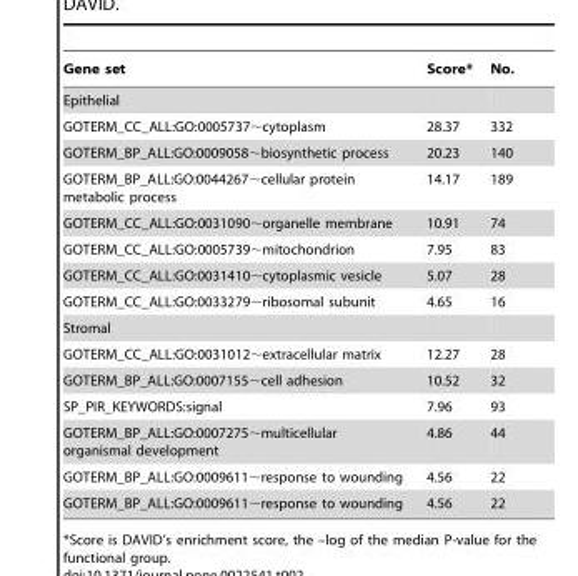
<table><thead><tr><td>Gene set</td><td>Score*</td><td>No.</td></tr></thead><tbody><tr><td colspan="3">Epithelial</td></tr><tr><td>GOTERM_CC_ALL:GO:0005737∼cytoplasm</td><td>28.37</td><td>332</td></tr><tr><td>GOTERM_BP_ALL:GO:0009058∼biosynthetic process</td><td>20.23</td><td>140</td></tr><tr><td>GOTERM_BP_ALL:GO:0044267∼cellular protein metabolic process</td><td>14.17</td><td>189</td></tr><tr><td>GOTERM_CC_ALL:GO:0031090∼organelle membrane</td><td>10.91</td><td>74</td></tr><tr><td>GOTERM_CC_ALL:GO:0005739∼mitochondrion</td><td>7.95</td><td>83</td></tr><tr><td>GOTERM_CC_ALL:GO:0031410∼cytoplasmic vesicle</td><td>5.07</td><td>28</td></tr><tr><td>GOTERM_CC_ALL:GO:0033279∼ribosomal subunit</td><td>4.65</td><td>16</td></tr><tr><td colspan="3">Stromal</td></tr><tr><td>GOTERM_CC_ALL:GO:0031012∼extracellular matrix</td><td>12.27</td><td>28</td></tr><tr><td>GOTERM_BP_ALL:GO:0007155∼cell adhesion</td><td>10.52</td><td>32</td></tr><tr><td>SP_PIR_KEYWORDS:signal</td><td>7.96</td><td>93</td></tr><tr><td>GOTERM_BP_ALL:GO:0007275∼multicellular organismal development</td><td>4.86</td><td>44</td></tr><tr><td>GOTERM_BP_ALL:GO:0009611∼response to wounding</td><td>4.56</td><td>22</td></tr><tr><td>GOTERM_BP_ALL:GO:0009611∼response to wounding</td><td>4.56</td><td>22</td></tr></tbody></table>